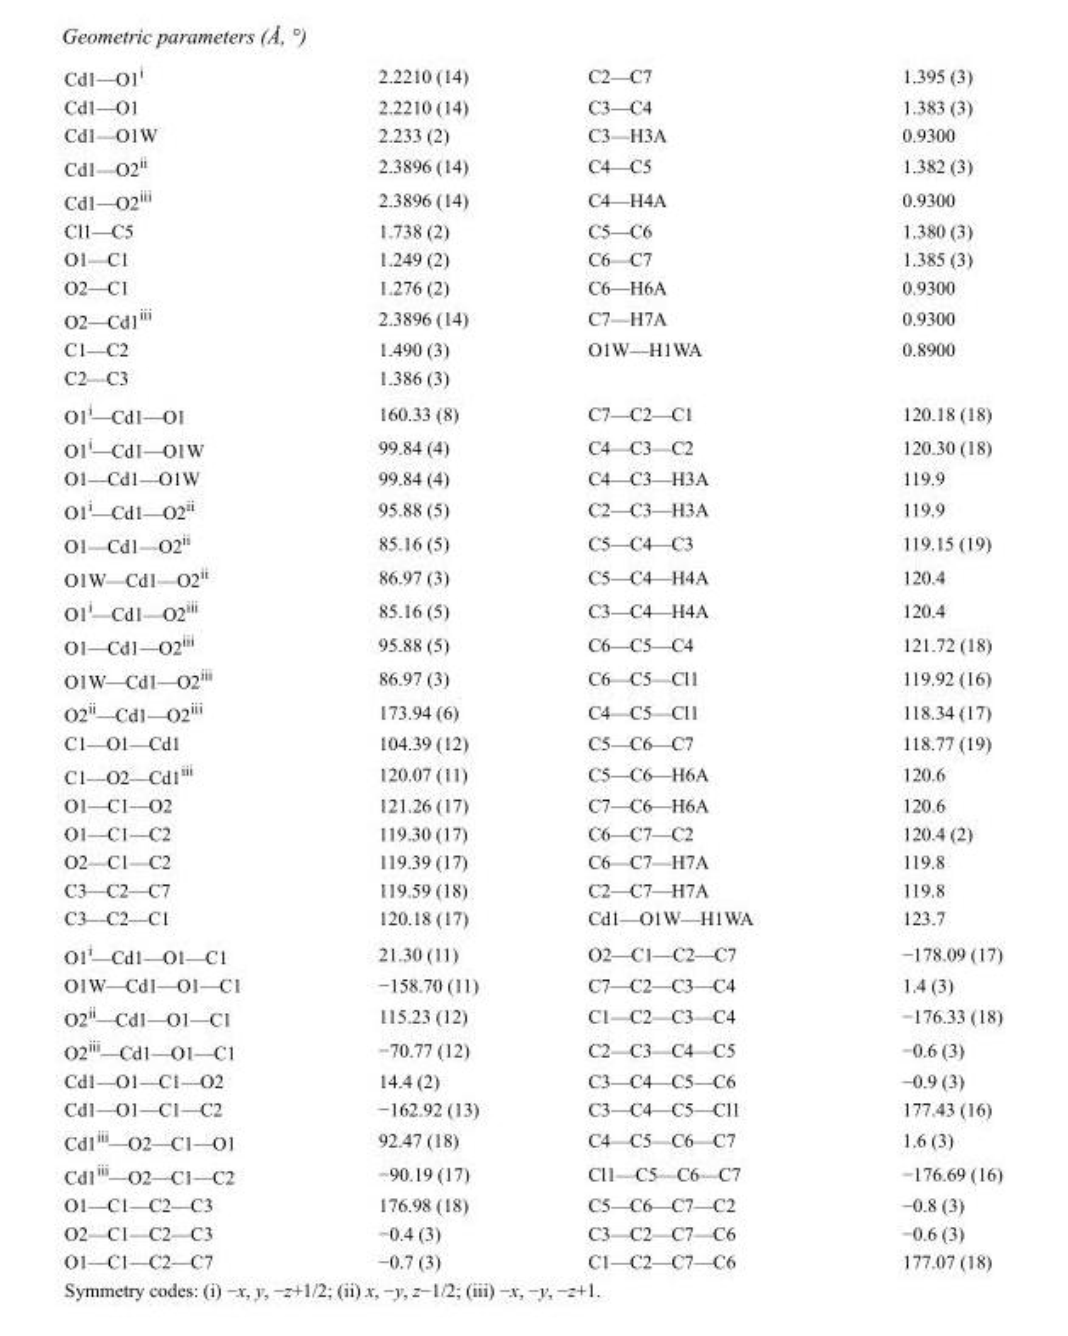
<table><tbody><tr><td>Cd1—O1<sup>i</sup></td><td>2.2210 (14)</td><td>C2—C7</td><td>1.395 (3)</td></tr><tr><td>Cd1—O1</td><td>2.2210 (14)</td><td>C3—C4</td><td>1.383 (3)</td></tr><tr><td>Cd1—O1W</td><td>2.233 (2)</td><td>C3—H3A</td><td>0.9300</td></tr><tr><td>Cd1—O2<sup>ii</sup></td><td>2.3896 (14)</td><td>C4—C5</td><td>1.382 (3)</td></tr><tr><td>Cd1—O2<sup>iii</sup></td><td>2.3896 (14)</td><td>C4—H4A</td><td>0.9300</td></tr><tr><td>Cl1—C5</td><td>1.738 (2)</td><td>C5—C6</td><td>1.380 (3)</td></tr><tr><td>O1—C1</td><td>1.249 (2)</td><td>C6—C7</td><td>1.385 (3)</td></tr><tr><td>O2—C1</td><td>1.276 (2)</td><td>C6—H6A</td><td>0.9300</td></tr><tr><td>O2—Cd1<sup>iii</sup></td><td>2.3896 (14)</td><td>C7—H7A</td><td>0.9300</td></tr><tr><td>C1—C2</td><td>1.490 (3)</td><td>O1W—H1WA</td><td>0.8900</td></tr><tr><td>C2—C3</td><td>1.386 (3)</td><td></td><td></td></tr><tr><td>O1<sup>i</sup>—Cd1—O1</td><td>160.33 (8)</td><td>C7—C2—C1</td><td>120.18 (18)</td></tr><tr><td>O1<sup>i</sup>—Cd1—O1W</td><td>99.84 (4)</td><td>C4—C3—C2</td><td>120.30 (18)</td></tr><tr><td>O1—Cd1—O1W</td><td>99.84 (4)</td><td>C4—C3—H3A</td><td>119.9</td></tr><tr><td>O1<sup>i</sup>—Cd1—O2<sup>ii</sup></td><td>95.88 (5)</td><td>C2—C3—H3A</td><td>119.9</td></tr><tr><td>O1—Cd1—O2<sup>ii</sup></td><td>85.16 (5)</td><td>C5—C4—C3</td><td>119.15 (19)</td></tr><tr><td>O1W—Cd1—O2<sup>ii</sup></td><td>86.97 (3)</td><td>C5—C4—H4A</td><td>120.4</td></tr><tr><td>O1<sup>i</sup>—Cd1—O2<sup>iii</sup></td><td>85.16 (5)</td><td>C3—C4—H4A</td><td>120.4</td></tr><tr><td>O1—Cd1—O2<sup>iii</sup></td><td>95.88 (5)</td><td>C6—C5—C4</td><td>121.72 (18)</td></tr><tr><td>O1W—Cd1—O2<sup>iii</sup></td><td>86.97 (3)</td><td>C6—C5—Cl1</td><td>119.92 (16)</td></tr><tr><td>O2<sup>ii</sup>—Cd1—O2<sup>iii</sup></td><td>173.94 (6)</td><td>C4—C5—Cl1</td><td>118.34 (17)</td></tr><tr><td>C1—O1—Cd1</td><td>104.39 (12)</td><td>C5—C6—C7</td><td>118.77 (19)</td></tr><tr><td>C1—O2—Cd1<sup>iii</sup></td><td>120.07 (11)</td><td>C5—C6—H6A</td><td>120.6</td></tr><tr><td>O1—C1—O2</td><td>121.26 (17)</td><td>C7—C6—H6A</td><td>120.6</td></tr><tr><td>O1—C1—C2</td><td>119.30 (17)</td><td>C6—C7—C2</td><td>120.4 (2)</td></tr><tr><td>O2—C1—C2</td><td>119.39 (17)</td><td>C6—C7—H7A</td><td>119.8</td></tr><tr><td>C3—C2—C7</td><td>119.59 (18)</td><td>C2—C7—H7A</td><td>119.8</td></tr><tr><td>C3—C2—C1</td><td>120.18 (17)</td><td>Cd1—O1W—H1WA</td><td>123.7</td></tr><tr><td>O1<sup>i</sup>—Cd1—O1—C1</td><td>21.30 (11)</td><td>O2—C1—C2—C7</td><td>−178.09 (17)</td></tr><tr><td>O1W—Cd1—O1—C1</td><td>−158.70 (11)</td><td>C7—C2—C3—C4</td><td>1.4 (3)</td></tr><tr><td>O2<sup>ii</sup>—Cd1—O1—C1</td><td>115.23 (12)</td><td>C1—C2—C3—C4</td><td>−176.33 (18)</td></tr><tr><td>O2<sup>iii</sup>—Cd1—O1—C1</td><td>−70.77 (12)</td><td>C2—C3—C4—C5</td><td>−0.6 (3)</td></tr><tr><td>Cd1—O1—C1—O2</td><td>14.4 (2)</td><td>C3—C4—C5—C6</td><td>−0.9 (3)</td></tr><tr><td>Cd1—O1—C1—C2</td><td>−162.92 (13)</td><td>C3—C4—C5—Cl1</td><td>177.43 (16)</td></tr><tr><td>Cd1<sup>iii</sup>—O2—C1—O1</td><td>92.47 (18)</td><td>C4—C5—C6—C7</td><td>1.6 (3)</td></tr><tr><td>Cd1<sup>iii</sup>—O2—C1—C2</td><td>−90.19 (17)</td><td>Cl1—C5—C6—C7</td><td>−176.69 (16)</td></tr><tr><td>O1—C1—C2—C3</td><td>176.98 (18)</td><td>C5—C6—C7—C2</td><td>−0.8 (3)</td></tr><tr><td>O2—C1—C2—C3</td><td>−0.4 (3)</td><td>C3—C2—C7—C6</td><td>−0.6 (3)</td></tr><tr><td>O1—C1—C2—C7</td><td>−0.7 (3)</td><td>C1—C2—C7—C6</td><td>177.07 (18)</td></tr></tbody></table>